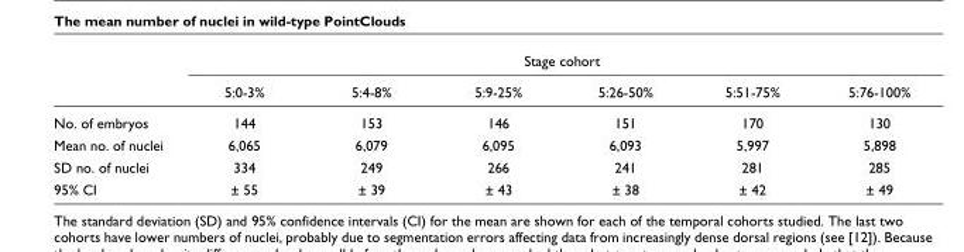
<table><thead><tr><td rowspan="2"></td><td colspan="6">Stage cohort</td></tr><tr><td>5:0-3%</td><td>5:4-8%</td><td>5:9-25%</td><td>5:26-50%</td><td>5:51-75%</td><td>5:76-100%</td></tr></thead><tbody><tr><td>No. of embryos</td><td>144</td><td>153</td><td>146</td><td>151</td><td>170</td><td>130</td></tr><tr><td>Mean no. of nuclei</td><td>6,065</td><td>6,079</td><td>6,095</td><td>6,093</td><td>5,997</td><td>5,898</td></tr><tr><td>SD no. of nuclei</td><td>334</td><td>249</td><td>266</td><td>241</td><td>281</td><td>285</td></tr><tr><td>95% CI</td><td>± 55</td><td>± 39</td><td>± 43</td><td>± 38</td><td>± 42</td><td>± 49</td></tr></tbody></table>